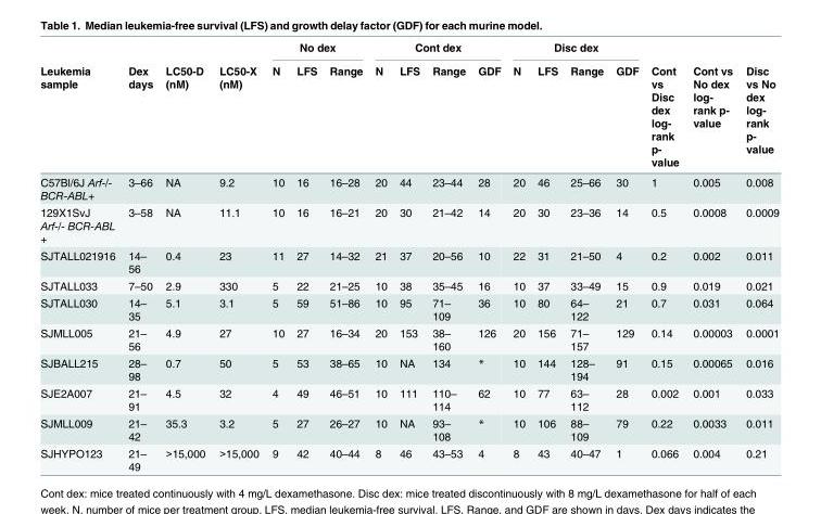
<table><thead><tr><td rowspan="2">Leukemia sample</td><td rowspan="2">Dex days</td><td rowspan="2">LC50-D (nM)</td><td rowspan="2">LC50-X (nM)</td><td colspan="3">No dex</td><td colspan="4">Cont dex</td><td colspan="4">Disc dex</td><td rowspan="2">Cont vs Disc dex log- rank p- value</td><td rowspan="2">Cont vs No dex log- rank p- value</td><td rowspan="2">Disc vs No dex log- rank p- value</td></tr><tr><td>N</td><td>LFS</td><td>Range</td><td>N</td><td>LFS</td><td>Range</td><td>GDF</td><td>N</td><td>LFS</td><td>Range</td><td>GDF</td></tr></thead><tbody><tr><td>C57Bl/6J Arf-/- BCR-ABL+</td><td>3–66</td><td>NA</td><td>9.2</td><td>10</td><td>16</td><td>16–28</td><td>20</td><td>44</td><td>23–44</td><td>28</td><td>20</td><td>46</td><td>25–66</td><td>30</td><td>1</td><td>0.005</td><td>0.008</td></tr><tr><td>129X1SvJ Arf-/- BCR-ABL +</td><td>3–58</td><td>NA</td><td>11.1</td><td>10</td><td>16</td><td>16–21</td><td>20</td><td>30</td><td>21–42</td><td>14</td><td>20</td><td>30</td><td>23–36</td><td>14</td><td>0.5</td><td>0.0008</td><td>0.0009</td></tr><tr><td>SJTALL021916</td><td>14– 56</td><td>0.4</td><td>23</td><td>11</td><td>27</td><td>14–32</td><td>21</td><td>37</td><td>20–56</td><td>10</td><td>22</td><td>31</td><td>21–50</td><td>4</td><td>0.2</td><td>0.002</td><td>0.011</td></tr><tr><td>SJTALL033</td><td>7–50</td><td>2.9</td><td>330</td><td>5</td><td>22</td><td>21–25</td><td>10</td><td>38</td><td>35–45</td><td>16</td><td>10</td><td>37</td><td>33–49</td><td>15</td><td>0.9</td><td>0.019</td><td>0.021</td></tr><tr><td>SJTALL030</td><td>14– 35</td><td>5.1</td><td>3.1</td><td>5</td><td>59</td><td>51–86</td><td>10</td><td>95</td><td>71– 109</td><td>36</td><td>10</td><td>80</td><td>64– 122</td><td>21</td><td>0.7</td><td>0.031</td><td>0.064</td></tr><tr><td>SJMLL005</td><td>21– 56</td><td>4.9</td><td>27</td><td>10</td><td>27</td><td>16–34</td><td>20</td><td>153</td><td>38– 160</td><td>126</td><td>20</td><td>156</td><td>71– 157</td><td>129</td><td>0.14</td><td>0.00003</td><td>0.0001</td></tr><tr><td>SJBALL215</td><td>28– 98</td><td>0.7</td><td>50</td><td>5</td><td>53</td><td>38–65</td><td>10</td><td>NA</td><td>134</td><td>*</td><td>10</td><td>144</td><td>128– 194</td><td>91</td><td>0.15</td><td>0.00065</td><td>0.016</td></tr><tr><td>SJE2A007</td><td>21– 91</td><td>4.5</td><td>32</td><td>4</td><td>49</td><td>46–51</td><td>10</td><td>111</td><td>110– 114</td><td>62</td><td>10</td><td>77</td><td>63– 112</td><td>28</td><td>0.002</td><td>0.001</td><td>0.033</td></tr><tr><td>SJMLL009</td><td>21– 42</td><td>35.3</td><td>3.2</td><td>5</td><td>27</td><td>26–27</td><td>10</td><td>NA</td><td>93– 108</td><td>*</td><td>10</td><td>106</td><td>88– 109</td><td>79</td><td>0.22</td><td>0.0033</td><td>0.011</td></tr><tr><td>SJHYPO123</td><td>21– 49</td><td>&gt;15,000</td><td>&gt;15,000</td><td>9</td><td>42</td><td>40–44</td><td>8</td><td>46</td><td>43–53</td><td>4</td><td>8</td><td>43</td><td>40–47</td><td>1</td><td>0.066</td><td>0.004</td><td>0.21</td></tr></tbody></table>